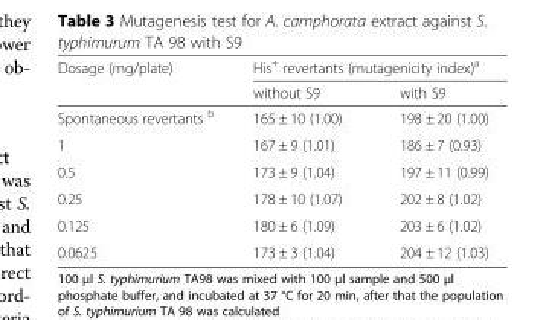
<table><thead><tr><td rowspan="2">Dosage (mg/plate)</td><td colspan="2">His<sup>+</sup> revertants (mutagenicity index)<sup>a</sup></td></tr><tr><td>without S9</td><td>with S9</td></tr></thead><tbody><tr><td>Spontaneous revertants <sup>b</sup></td><td>165 ± 10 (1.00)</td><td>198 ± 20 (1.00)</td></tr><tr><td>1</td><td>167 ± 9 (1.01)</td><td>186 ± 7 (0.93)</td></tr><tr><td>0.5</td><td>173 ± 9 (1.04)</td><td>197 ± 11 (0.99)</td></tr><tr><td>0.25</td><td>178 ± 10 (1.07)</td><td>202 ± 8 (1.02)</td></tr><tr><td>0.125</td><td>180 ± 6 (1.09)</td><td>203 ± 6 (1.02)</td></tr><tr><td>0.0625</td><td>173 ± 3 (1.04)</td><td>204 ± 12 (1.03)</td></tr></tbody></table>